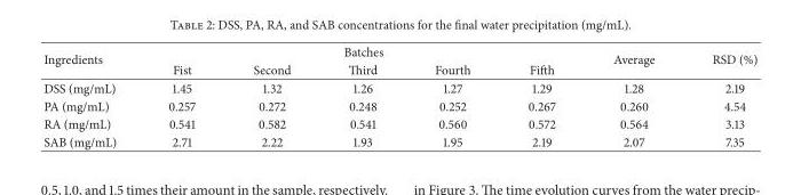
<table><thead><tr><td rowspan="2">Ingredients</td><td colspan="5">Batches</td><td rowspan="2">Average</td><td rowspan="2">RSD (%)</td></tr><tr><td>Fist</td><td>Second</td><td>Third</td><td>Fourth</td><td>Fifth</td></tr></thead><tbody><tr><td>DSS (mg/mL)</td><td>1.45</td><td>1.32</td><td>1.26</td><td>1.27</td><td>1.29</td><td>1.28</td><td>2.19</td></tr><tr><td>PA (mg/mL)</td><td>0.257</td><td>0.272</td><td>0.248</td><td>0.252</td><td>0.267</td><td>0.260</td><td>4.54</td></tr><tr><td>RA (mg/mL)</td><td>0.541</td><td>0.582</td><td>0.541</td><td>0.560</td><td>0.572</td><td>0.564</td><td>3.13</td></tr><tr><td>SAB (mg/mL)</td><td>2.71</td><td>2.22</td><td>1.93</td><td>1.95</td><td>2.19</td><td>2.07</td><td>7.35</td></tr></tbody></table>